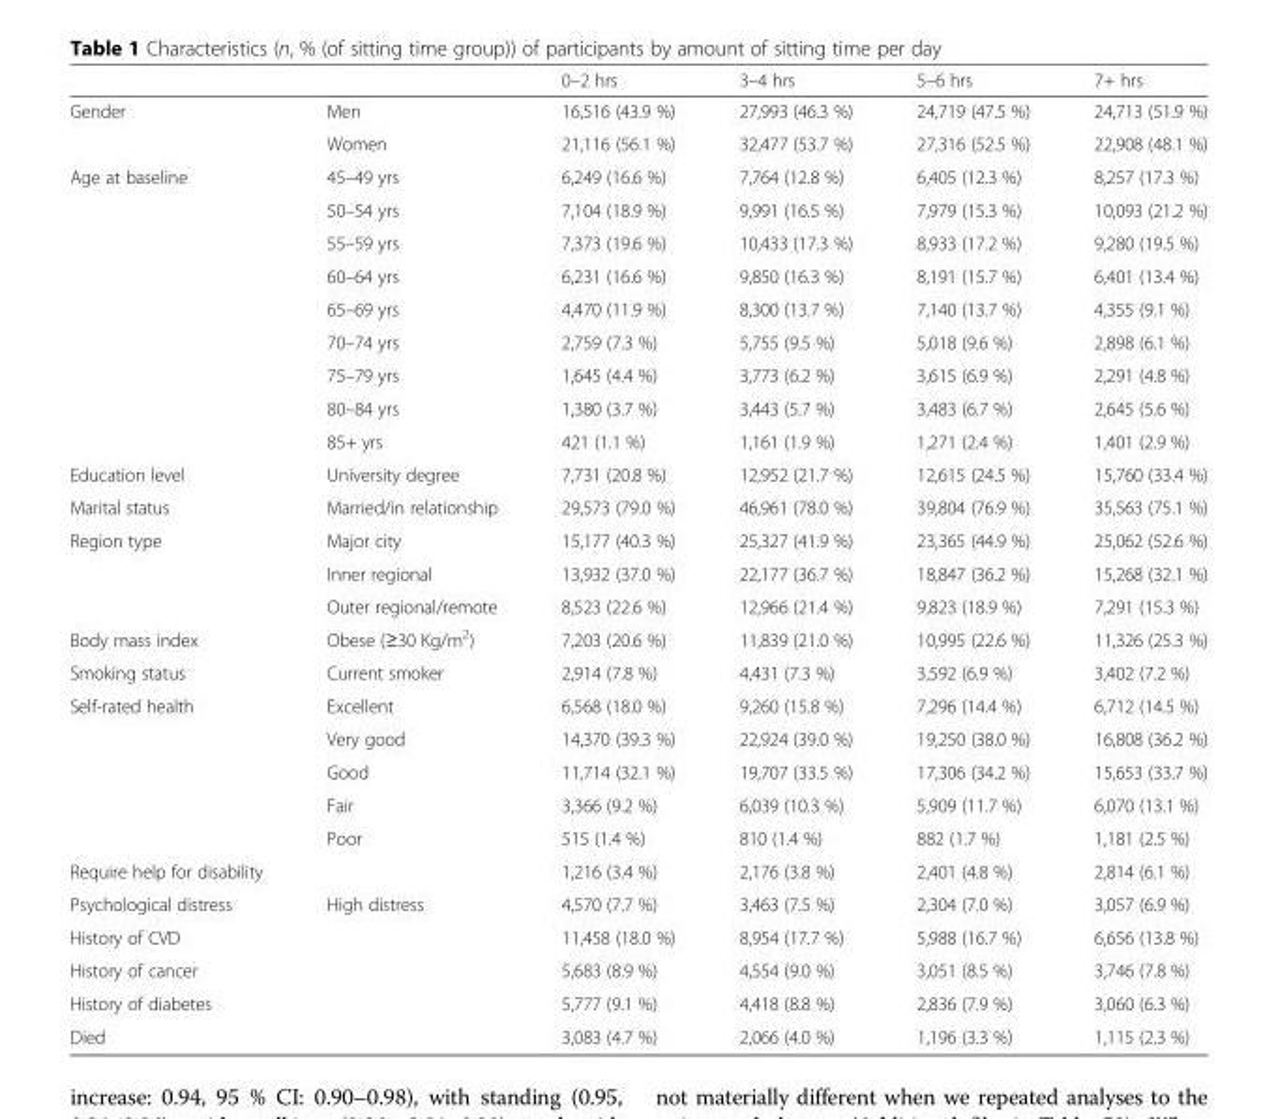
<table><thead><tr><td></td><td></td><td>0–2 hrs</td><td>3–4 hrs</td><td>5–6 hrs</td><td>7+ hrs</td></tr></thead><tbody><tr><td rowspan="2">Gender</td><td>Men</td><td>16,516 (43.9 %)</td><td>27,993 (46.3 %)</td><td>24,719 (47.5 %)</td><td>24,713 (51.9 %)</td></tr><tr><td>Women</td><td>21,116 (56.1 %)</td><td>32,477 (53.7 %)</td><td>27,316 (52.5 %)</td><td>22,908 (48.1 %)</td></tr><tr><td rowspan="9">Age at baseline</td><td>45–49 yrs</td><td>6,249 (16.6 %)</td><td>7,764 (12.8 %)</td><td>6,405 (12.3 %)</td><td>8,257 (17.3 %)</td></tr><tr><td>50–54 yrs</td><td>7,104 (18.9 %)</td><td>9,991 (16.5 %)</td><td>7,979 (15.3 %)</td><td>10,093 (21.2 %)</td></tr><tr><td>55–59 yrs</td><td>7,373 (19.6 %)</td><td>10,433 (17.3 %)</td><td>8,933 (17.2 %)</td><td>9,280 (19.5 %)</td></tr><tr><td>60–64 yrs</td><td>6,231 (16.6 %)</td><td>9,850 (16.3 %)</td><td>8,191 (15.7 %)</td><td>6,401 (13.4 %)</td></tr><tr><td>65–69 yrs</td><td>4,470 (11.9 %)</td><td>8,300 (13.7 %)</td><td>7,140 (13.7 %)</td><td>4,355 (9.1 %)</td></tr><tr><td>70–74 yrs</td><td>2,759 (7.3 %)</td><td>5,755 (9.5 %)</td><td>5,018 (9.6 %)</td><td>2,898 (6.1 %)</td></tr><tr><td>75–79 yrs</td><td>1,645 (4.4 %)</td><td>3,773 (6.2 %)</td><td>3,615 (6.9 %)</td><td>2,291 (4.8 %)</td></tr><tr><td>80–84 yrs</td><td>1,380 (3.7 %)</td><td>3,443 (5.7 %)</td><td>3,483 (6.7 %)</td><td>2,645 (5.6 %)</td></tr><tr><td>85+ yrs</td><td>421 (1.1 %)</td><td>1,161 (1.9 %)</td><td>1,271 (2.4 %)</td><td>1,401 (2.9 %)</td></tr><tr><td>Education level</td><td>University degree</td><td>7,731 (20.8 %)</td><td>12,952 (21.7 %)</td><td>12,615 (24.5 %)</td><td>15,760 (33.4 %)</td></tr><tr><td>Marital status</td><td>Married/in relationship</td><td>29,573 (79.0 %)</td><td>46,961 (78.0 %)</td><td>39,804 (76.9 %)</td><td>35,563 (75.1 %)</td></tr><tr><td rowspan="3">Region type</td><td>Major city</td><td>15,177 (40.3 %)</td><td>25,327 (41.9 %)</td><td>23,365 (44.9 %)</td><td>25,062 (52.6 %)</td></tr><tr><td>Inner regional</td><td>13,932 (37.0 %)</td><td>22,177 (36.7 %)</td><td>18,847 (36.2 %)</td><td>15,268 (32.1 %)</td></tr><tr><td>Outer regional/remote</td><td>8,523 (22.6 %)</td><td>12,966 (21.4 %)</td><td>9,823 (18.9 %)</td><td>7,291 (15.3 %)</td></tr><tr><td>Body mass index</td><td>Obese (≥30 Kg/m<sup>2</sup>)</td><td>7,203 (20.6 %)</td><td>11,839 (21.0 %)</td><td>10,995 (22.6 %)</td><td>11,326 (25.3 %)</td></tr><tr><td>Smoking status</td><td>Current smoker</td><td>2,914 (7.8 %)</td><td>4,431 (7.3 %)</td><td>3,592 (6.9 %)</td><td>3,402 (7.2 %)</td></tr><tr><td rowspan="5">Self-rated health</td><td>Excellent</td><td>6,568 (18.0 %)</td><td>9,260 (15.8 %)</td><td>7,296 (14.4 %)</td><td>6,712 (14.5 %)</td></tr><tr><td>Very good</td><td>14,370 (39.3 %)</td><td>22,924 (39.0 %)</td><td>19,250 (38.0 %)</td><td>16,808 (36.2 %)</td></tr><tr><td>Good</td><td>11,714 (32.1 %)</td><td>19,707 (33.5 %)</td><td>17,306 (34.2 %)</td><td>15,653 (33.7 %)</td></tr><tr><td>Fair</td><td>3,366 (9.2 %)</td><td>6,039 (10.3 %)</td><td>5,909 (11.7 %)</td><td>6,070 (13.1 %)</td></tr><tr><td>Poor</td><td>515 (1.4 %)</td><td>810 (1.4 %)</td><td>882 (1.7 %)</td><td>1,181 (2.5 %)</td></tr><tr><td>Require help for disability</td><td></td><td>1,216 (3.4 %)</td><td>2,176 (3.8 %)</td><td>2,401 (4.8 %)</td><td>2,814 (6.1 %)</td></tr><tr><td>Psychological distress</td><td>High distress</td><td>4,570 (7.7 %)</td><td>3,463 (7.5 %)</td><td>2,304 (7.0 %)</td><td>3,057 (6.9 %)</td></tr><tr><td>History of CVD</td><td></td><td>11,458 (18.0 %)</td><td>8,954 (17.7 %)</td><td>5,988 (16.7 %)</td><td>6,656 (13.8 %)</td></tr><tr><td>History of cancer</td><td></td><td>5,683 (8.9 %)</td><td>4,554 (9.0 %)</td><td>3,051 (8.5 %)</td><td>3,746 (7.8 %)</td></tr><tr><td>History of diabetes</td><td></td><td>5,777 (9.1 %)</td><td>4,418 (8.8 %)</td><td>2,836 (7.9 %)</td><td>3,060 (6.3 %)</td></tr><tr><td>Died</td><td></td><td>3,083 (4.7 %)</td><td>2,066 (4.0 %)</td><td>1,196 (3.3 %)</td><td>1,115 (2.3 %)</td></tr></tbody></table>